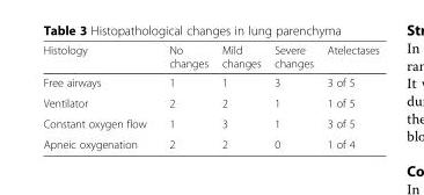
<table><thead><tr><td>Histology</td><td>No changes</td><td>Mild changes</td><td>Severe changes</td><td>Atelectases</td></tr></thead><tbody><tr><td>Free airways</td><td>1</td><td>1</td><td>3</td><td>3 of 5</td></tr><tr><td>Ventilator</td><td>2</td><td>2</td><td>1</td><td>1 of 5</td></tr><tr><td>Constant oxygen flow</td><td>1</td><td>3</td><td>1</td><td>3 of 5</td></tr><tr><td>Apneic oxygenation</td><td>2</td><td>2</td><td>0</td><td>1 of 4</td></tr></tbody></table>